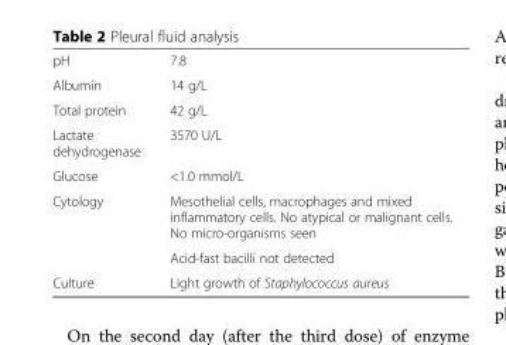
<table><tbody><tr><td>pH</td><td>7.8</td></tr><tr><td>Albumin</td><td>14 g/L</td></tr><tr><td>Total protein</td><td>42 g/L</td></tr><tr><td>Lactate dehydrogenase</td><td>3570 U/L</td></tr><tr><td>Glucose</td><td>&lt;1.0 mmol/L</td></tr><tr><td rowspan="2">Cytology</td><td>Mesothelial cells, macrophages and mixed inflammatory cells. No atypical or malignant cells. No micro-organisms seen</td></tr><tr><td>Acid-fast bacilli not detected</td></tr><tr><td>Culture</td><td>Light growth of Staphylococcus aureus</td></tr></tbody></table>